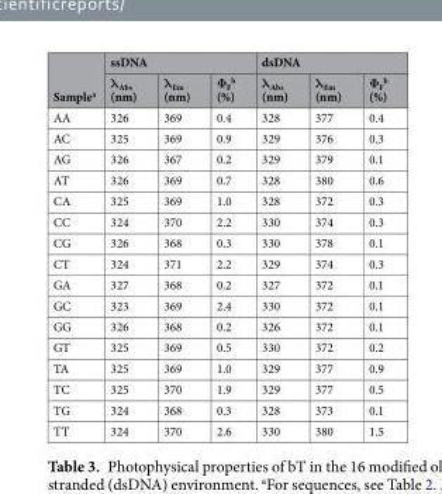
<table><thead><tr><td rowspan="2">Sample<sup>a</sup></td><td colspan="3">ssDNA</td><td colspan="3">dsDNA</td></tr><tr><td>λ<sub>Abs</sub> (nm)</td><td>λ<sub>Em</sub> (nm)</td><td>Φ<sub>F</sub> <sup>b</sup> (%)</td><td>λ<sub>Abs</sub> (nm)</td><td>λ<sub>Em</sub> (nm)</td><td>Φ<sub>F</sub> <sup>b</sup> (%)</td></tr></thead><tbody><tr><td>AA</td><td>326</td><td>369</td><td>0.4</td><td>328</td><td>377</td><td>0.4</td></tr><tr><td>AC</td><td>325</td><td>369</td><td>0.9</td><td>329</td><td>376</td><td>0.3</td></tr><tr><td>AG</td><td>326</td><td>367</td><td>0.2</td><td>329</td><td>379</td><td>0.1</td></tr><tr><td>AT</td><td>326</td><td>369</td><td>0.7</td><td>328</td><td>380</td><td>0.6</td></tr><tr><td>CA</td><td>325</td><td>369</td><td>1.0</td><td>328</td><td>372</td><td>0.3</td></tr><tr><td>CC</td><td>324</td><td>370</td><td>2.2</td><td>330</td><td>374</td><td>0.3</td></tr><tr><td>CG</td><td>326</td><td>368</td><td>0.3</td><td>330</td><td>378</td><td>0.1</td></tr><tr><td>CT</td><td>324</td><td>371</td><td>2.2</td><td>329</td><td>374</td><td>0.3</td></tr><tr><td>GA</td><td>327</td><td>368</td><td>0.2</td><td>327</td><td>372</td><td>0.1</td></tr><tr><td>GC</td><td>323</td><td>369</td><td>2.4</td><td>330</td><td>372</td><td>0.1</td></tr><tr><td>GG</td><td>326</td><td>368</td><td>0.2</td><td>326</td><td>372</td><td>0.1</td></tr><tr><td>GT</td><td>325</td><td>369</td><td>0.5</td><td>330</td><td>372</td><td>0.2</td></tr><tr><td>TA</td><td>325</td><td>369</td><td>1.0</td><td>329</td><td>377</td><td>0.9</td></tr><tr><td>TC</td><td>325</td><td>370</td><td>1.9</td><td>329</td><td>377</td><td>0.5</td></tr><tr><td>TG</td><td>324</td><td>368</td><td>0.3</td><td>328</td><td>373</td><td>0.1</td></tr><tr><td>TT</td><td>324</td><td>370</td><td>2.6</td><td>330</td><td>380</td><td>1.5</td></tr></tbody></table>